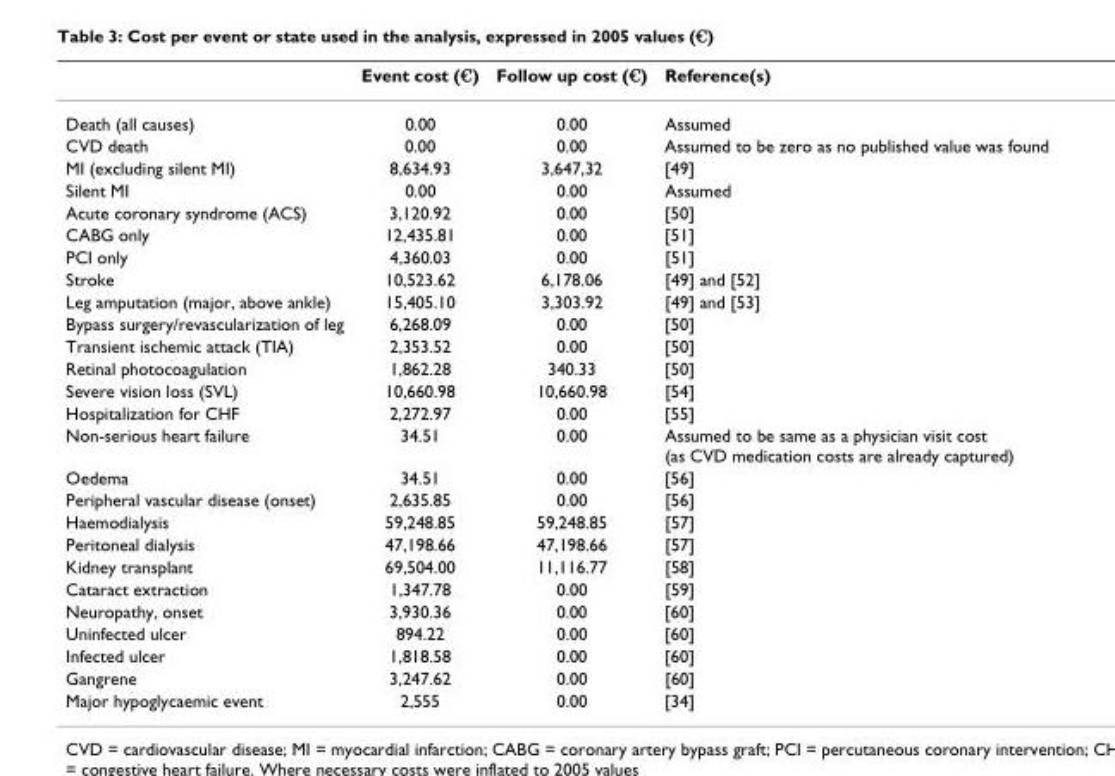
<table><thead><tr><td></td><td>Event cost (€)</td><td>Follow up cost (€)</td><td>Reference(s)</td></tr></thead><tbody><tr><td>Death (all causes)</td><td>0.00</td><td>0.00</td><td>Assumed</td></tr><tr><td>CVD death</td><td>0.00</td><td>0.00</td><td>Assumed to be zero as no published value was found</td></tr><tr><td>MI (excluding silent MI)</td><td>8,634.93</td><td>3,647,32</td><td>[49]</td></tr><tr><td>Silent MI</td><td>0.00</td><td>0.00</td><td>Assumed</td></tr><tr><td>Acute coronary syndrome (ACS)</td><td>3,120.92</td><td>0.00</td><td>[50]</td></tr><tr><td>CABG only</td><td>12,435.81</td><td>0.00</td><td>[51]</td></tr><tr><td>PCI only</td><td>4,360.03</td><td>0.00</td><td>[51]</td></tr><tr><td>Stroke</td><td>10,523.62</td><td>6,178.06</td><td>[49] and [52]</td></tr><tr><td>Leg amputation (major, above ankle)</td><td>15,405.10</td><td>3,303.92</td><td>[49] and [53]</td></tr><tr><td>Bypass surgery/revascularization of leg</td><td>6,268.09</td><td>0.00</td><td>[50]</td></tr><tr><td>Transient ischemic attack (TIA)</td><td>2,353.52</td><td>0.00</td><td>[50]</td></tr><tr><td>Retinal photocoagulation</td><td>1,862.28</td><td>340.33</td><td>[50]</td></tr><tr><td>Severe vision loss (SVL)</td><td>10,660.98</td><td>10,660.98</td><td>[54]</td></tr><tr><td>Hospitalization for CHF</td><td>2,272.97</td><td>0.00</td><td>[55]</td></tr><tr><td>Non-serious heart failure</td><td>34.51</td><td>0.00</td><td>Assumed to be same as a physician visit cost (as CVD medication costs are already captured)</td></tr><tr><td>Oedema</td><td>34.51</td><td>0.00</td><td>[56]</td></tr><tr><td>Peripheral vascular disease (onset)</td><td>2,635.85</td><td>0.00</td><td>[56]</td></tr><tr><td>Haemodialysis</td><td>59,248.85</td><td>59,248.85</td><td>[57]</td></tr><tr><td>Peritoneal dialysis</td><td>47,198.66</td><td>47,198.66</td><td>[57]</td></tr><tr><td>Kidney transplant</td><td>69,504.00</td><td>11,116.77</td><td>[58]</td></tr><tr><td>Cataract extraction</td><td>1,347.78</td><td>0.00</td><td>[59]</td></tr><tr><td>Neuropathy, onset</td><td>3,930.36</td><td>0.00</td><td>[60]</td></tr><tr><td>Uninfected ulcer</td><td>894.22</td><td>0.00</td><td>[60]</td></tr><tr><td>Infected ulcer</td><td>1,818.58</td><td>0.00</td><td>[60]</td></tr><tr><td>Gangrene</td><td>3,247.62</td><td>0.00</td><td>[60]</td></tr><tr><td>Major hypoglycaemic event</td><td>2,555</td><td>0.00</td><td>[34]</td></tr></tbody></table>